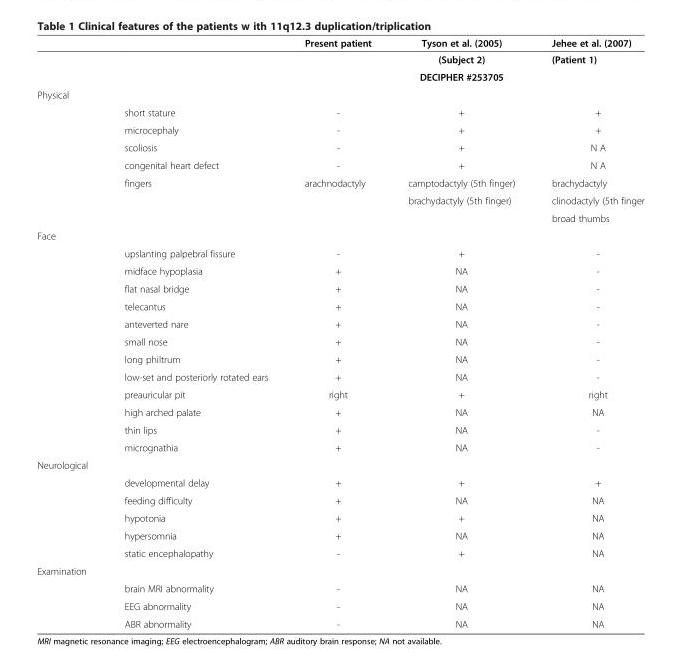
<table><thead><tr><td></td><td></td><td>Present patient</td><td>Tyson et al. (2005)</td><td>Jehee et al. (2007)</td></tr></thead><tbody><tr><td></td><td></td><td></td><td>(Subject 2)</td><td>(Patient 1)</td></tr><tr><td></td><td></td><td></td><td>DECIPHER #253705</td><td></td></tr><tr><td colspan="5">Physical</td></tr><tr><td></td><td>short stature</td><td>-</td><td>+</td><td>+</td></tr><tr><td></td><td>microcephaly</td><td>-</td><td>+</td><td>+</td></tr><tr><td></td><td>scoliosis</td><td>-</td><td>+</td><td>N A</td></tr><tr><td></td><td>congenital heart defect</td><td>-</td><td>+</td><td>N A</td></tr><tr><td></td><td>fingers</td><td>arachnodactyly</td><td>camptodactyly (5th finger)</td><td>brachydactyly</td></tr><tr><td></td><td></td><td></td><td>brachydactyly (5th finger)</td><td>clinodactyly (5th finger</td></tr><tr><td></td><td></td><td></td><td></td><td>broad thumbs</td></tr><tr><td colspan="5">Face</td></tr><tr><td></td><td>upslanting palpebral fissure</td><td>-</td><td>+</td><td>-</td></tr><tr><td></td><td>midface hypoplasia</td><td>+</td><td>NA</td><td>-</td></tr><tr><td></td><td>flat nasal bridge</td><td>+</td><td>NA</td><td>-</td></tr><tr><td></td><td>telecantus</td><td>+</td><td>NA</td><td>-</td></tr><tr><td></td><td>anteverted nare</td><td>+</td><td>NA</td><td>-</td></tr><tr><td></td><td>small nose</td><td>+</td><td>NA</td><td>-</td></tr><tr><td></td><td>long philtrum</td><td>+</td><td>NA</td><td>-</td></tr><tr><td></td><td>low-set and posteriorly rotated ears</td><td>+</td><td>NA</td><td>-</td></tr><tr><td></td><td>preauricular pit</td><td>right</td><td>+</td><td>right</td></tr><tr><td></td><td>high arched palate</td><td>+</td><td>NA</td><td>NA</td></tr><tr><td></td><td>thin lips</td><td>+</td><td>NA</td><td>-</td></tr><tr><td></td><td>micrognathia</td><td>+</td><td>NA</td><td>-</td></tr><tr><td colspan="5">Neurological</td></tr><tr><td></td><td>developmental delay</td><td>+</td><td>+</td><td>+</td></tr><tr><td></td><td>feeding difficulty</td><td>+</td><td>NA</td><td>NA</td></tr><tr><td></td><td>hypotonia</td><td>+</td><td>+</td><td>NA</td></tr><tr><td></td><td>hypersomnia</td><td>+</td><td>NA</td><td>NA</td></tr><tr><td></td><td>static encephalopathy</td><td>-</td><td>+</td><td>NA</td></tr><tr><td colspan="5">Examination</td></tr><tr><td></td><td>brain MRI abnormality</td><td>-</td><td>NA</td><td>NA</td></tr><tr><td></td><td>EEG abnormality</td><td>-</td><td>NA</td><td>NA</td></tr><tr><td></td><td>ABR abnormality</td><td>-</td><td>NA</td><td>NA</td></tr></tbody></table>